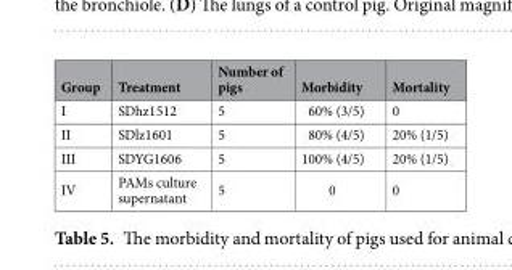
<table><thead><tr><td>Group</td><td>Treatment</td><td>Number of pigs</td><td>Morbidity</td><td>Mortality</td></tr></thead><tbody><tr><td>I</td><td>SDhz1512</td><td>5</td><td>60% (3/5)</td><td>0</td></tr><tr><td>II</td><td>SDlz1601</td><td>5</td><td>80% (4/5)</td><td>20% (1/5)</td></tr><tr><td>III</td><td>SDYG1606</td><td>5</td><td>100% (4/5)</td><td>20% (1/5)</td></tr><tr><td>IV</td><td>PAMs culture supernatant</td><td>5</td><td>0</td><td>0</td></tr></tbody></table>